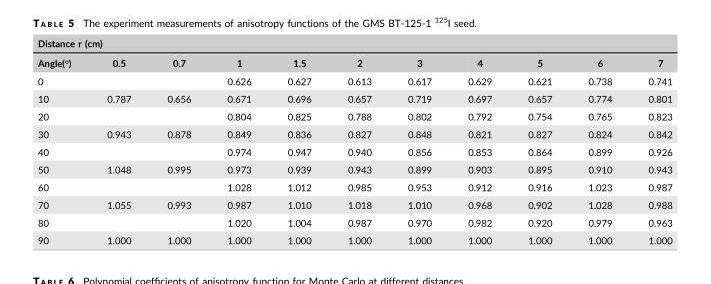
<table><thead><tr><td colspan="11">Distance r (cm)</td></tr><tr><td>Angle(°)</td><td>0.5</td><td>0.7</td><td>1</td><td>1.5</td><td>2</td><td>3</td><td>4</td><td>5</td><td>6</td><td>7</td></tr></thead><tbody><tr><td>0</td><td></td><td></td><td>0.626</td><td>0.627</td><td>0.613</td><td>0.617</td><td>0.629</td><td>0.621</td><td>0.738</td><td>0.741</td></tr><tr><td>10</td><td>0.787</td><td>0.656</td><td>0.671</td><td>0.696</td><td>0.657</td><td>0.719</td><td>0.697</td><td>0.657</td><td>0.774</td><td>0.801</td></tr><tr><td>20</td><td></td><td></td><td>0.804</td><td>0.825</td><td>0.788</td><td>0.802</td><td>0.792</td><td>0.754</td><td>0.765</td><td>0.823</td></tr><tr><td>30</td><td>0.943</td><td>0.878</td><td>0.849</td><td>0.836</td><td>0.827</td><td>0.848</td><td>0.821</td><td>0.827</td><td>0.824</td><td>0.842</td></tr><tr><td>40</td><td></td><td></td><td>0.974</td><td>0.947</td><td>0.940</td><td>0.856</td><td>0.853</td><td>0.864</td><td>0.899</td><td>0.926</td></tr><tr><td>50</td><td>1.048</td><td>0.995</td><td>0.973</td><td>0.939</td><td>0.943</td><td>0.899</td><td>0.903</td><td>0.895</td><td>0.910</td><td>0.943</td></tr><tr><td>60</td><td></td><td></td><td>1.028</td><td>1.012</td><td>0.985</td><td>0.953</td><td>0.912</td><td>0.916</td><td>1.023</td><td>0.987</td></tr><tr><td>70</td><td>1.055</td><td>0.993</td><td>0.987</td><td>1.010</td><td>1.018</td><td>1.010</td><td>0.968</td><td>0.902</td><td>1.028</td><td>0.988</td></tr><tr><td>80</td><td></td><td></td><td>1.020</td><td>1.004</td><td>0.987</td><td>0.970</td><td>0.982</td><td>0.920</td><td>0.979</td><td>0.963</td></tr><tr><td>90</td><td>1.000</td><td>1.000</td><td>1.000</td><td>1.000</td><td>1.000</td><td>1.000</td><td>1.000</td><td>1.000</td><td>1.000</td><td>1.000</td></tr></tbody></table>